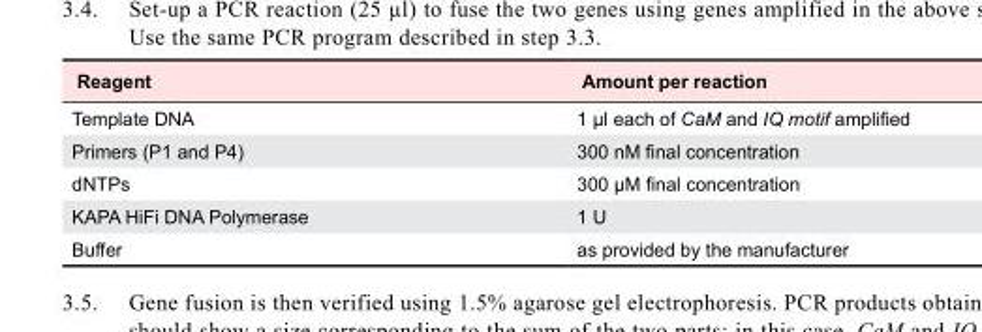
<table><tbody><tr><td>Reagent</td><td>Amount per reaction</td></tr><tr><td>Template DNA</td><td>1 µl each of CaM and IQ motif amplified</td></tr><tr><td>Primers (P1 and P4)</td><td>300 nM final concentration</td></tr><tr><td>dNTPs</td><td>300 µM final concentration</td></tr><tr><td>KAPA HiFi DNA Polymerase</td><td>1 U</td></tr><tr><td>Buffer</td><td>as provided by the manufacturer</td></tr></tbody></table>